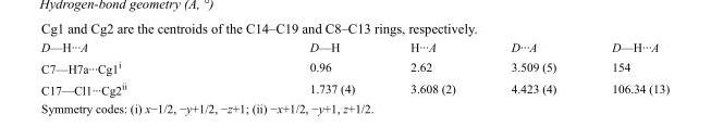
<table><tbody><tr><td>D—H···A</td><td>D—H</td><td>H···A</td><td>D···A</td><td>D—H···A</td></tr><tr><td>C7—H7a···Cg1<sup>i</sup></td><td>0.96</td><td>2.62</td><td>3.509 (5)</td><td>154</td></tr><tr><td>C17—Cl1···Cg2<sup>ii</sup></td><td>1.737 (4)</td><td>3.608 (2)</td><td>4.423 (4)</td><td>106.34 (13)</td></tr></tbody></table>